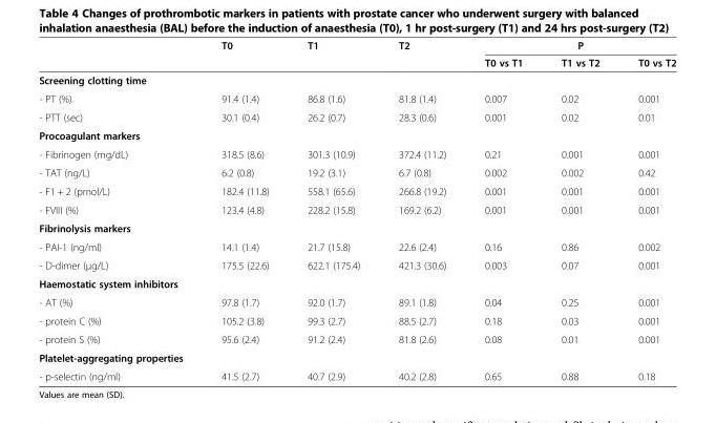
<table><thead><tr><td rowspan="2"></td><td rowspan="2">T0</td><td rowspan="2">T1</td><td rowspan="2">T2</td><td colspan="3">P</td></tr><tr><td>T0 vs T1</td><td>T1 vs T2</td><td>T0 vs T2</td></tr></thead><tbody><tr><td colspan="7">Screening clotting time</td></tr><tr><td>- PT (%)</td><td>91.4 (1.4)</td><td>86.8 (1.6)</td><td>81.8 (1.4)</td><td>0.007</td><td>0.02</td><td>0.001</td></tr><tr><td>- PTT (sec)</td><td>30.1 (0.4)</td><td>26.2 (0.7)</td><td>28.3 (0.6)</td><td>0.001</td><td>0.02</td><td>0.01</td></tr><tr><td colspan="7">Procoagulant markers</td></tr><tr><td>- Fibrinogen (mg/dL)</td><td>318.5 (8.6)</td><td>301.3 (10.9)</td><td>372.4 (11.2)</td><td>0.21</td><td>0.001</td><td>0.001</td></tr><tr><td>- TAT (ng/L)</td><td>6.2 (0.8)</td><td>19.2 (3.1)</td><td>6.7 (0.8)</td><td>0.002</td><td>0.002</td><td>0.42</td></tr><tr><td>- F1 + 2 (pmol/L)</td><td>182.4 (11.8)</td><td>558.1 (65.6)</td><td>266.8 (19.2)</td><td>0.001</td><td>0.001</td><td>0.001</td></tr><tr><td>- FVIII (%)</td><td>123.4 (4.8)</td><td>228.2 (15.8)</td><td>169.2 (6.2)</td><td>0.001</td><td>0.001</td><td>0.001</td></tr><tr><td colspan="7">Fibrinolysis markers</td></tr><tr><td>- PAI-1 (ng/ml)</td><td>14.1 (1.4)</td><td>21.7 (15.8)</td><td>22.6 (2.4)</td><td>0.16</td><td>0.86</td><td>0.002</td></tr><tr><td>- D-dimer (μg/L)</td><td>175.5 (22.6)</td><td>622.1 (175.4)</td><td>421.3 (30.6)</td><td>0.003</td><td>0.07</td><td>0.001</td></tr><tr><td colspan="7">Haemostatic system inhibitors</td></tr><tr><td>- AT (%)</td><td>97.8 (1.7)</td><td>92.0 (1.7)</td><td>89.1 (1.8)</td><td>0.04</td><td>0.25</td><td>0.001</td></tr><tr><td>- protein C (%)</td><td>105.2 (3.8)</td><td>99.3 (2.7)</td><td>88.5 (2.7)</td><td>0.18</td><td>0.03</td><td>0.001</td></tr><tr><td>- protein S (%)</td><td>95.6 (2.4)</td><td>91.2 (2.4)</td><td>81.8 (2.6)</td><td>0.08</td><td>0.01</td><td>0.001</td></tr><tr><td colspan="7">Platelet-aggregating properties</td></tr><tr><td>- p-selectin (ng/ml)</td><td>41.5 (2.7)</td><td>40.7 (2.9)</td><td>40.2 (2.8)</td><td>0.65</td><td>0.88</td><td>0.18</td></tr></tbody></table>